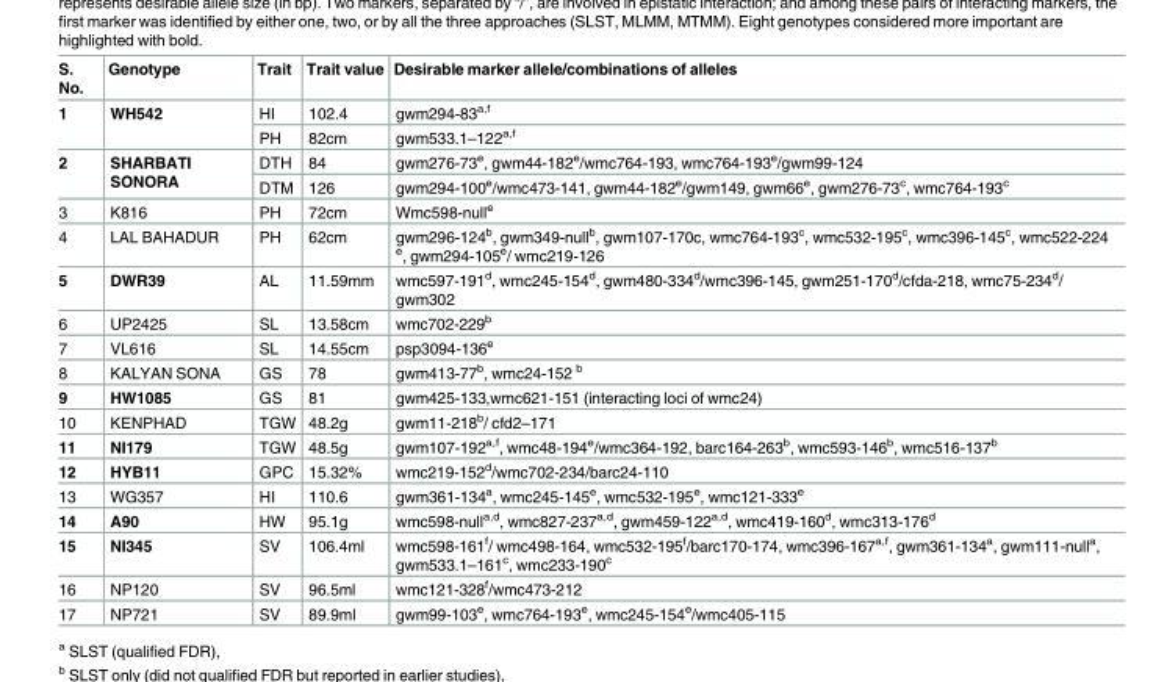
<table><thead><tr><td>S. No.</td><td>Genotype</td><td>Trait</td><td>Trait value</td><td>Desirable marker allele/combinations of alleles</td></tr></thead><tbody><tr><td rowspan="2">1</td><td rowspan="2">WH542</td><td>HI</td><td>102.4</td><td>gwm294-83<sup>a,f</sup></td></tr><tr><td>PH</td><td>82cm</td><td>gwm533.1–122<sup>a,f</sup></td></tr><tr><td rowspan="2">2</td><td rowspan="2">SHARBATI SONORA</td><td>DTH</td><td>84</td><td>gwm276-73<sup>e</sup>, gwm44-182<sup>e</sup>/wmc764-193, wmc764-193<sup>e</sup>/gwm99-124</td></tr><tr><td>DTM</td><td>126</td><td>gwm294-100<sup>e</sup>/wmc473-141, gwm44-182<sup>e</sup>/gwm149, gwm66<sup>e</sup>, gwm276-73<sup>c</sup>, wmc764-193<sup>c</sup></td></tr><tr><td>3</td><td>K816</td><td>PH</td><td>72cm</td><td>Wmc598-null<sup>e</sup></td></tr><tr><td>4</td><td>LAL BAHADUR</td><td>PH</td><td>62cm</td><td>gwm296-124<sup>b</sup>, gwm349-null<sup>b</sup>, gwm107-170c, wmc764-193<sup>c</sup>, wmc532-195<sup>c</sup>, wmc396-145<sup>c</sup>, wmc522-224 <sup>e</sup>, gwm294-105<sup>e</sup>/ wmc219-126</td></tr><tr><td>5</td><td>DWR39</td><td>AL</td><td>11.59mm</td><td>wmc597-191<sup>d</sup>, wmc245-154<sup>d</sup>, gwm480-334<sup>d</sup>/wmc396-145, gwm251-170<sup>d</sup>/cfda-218, wmc75-234<sup>d</sup>/ gwm302</td></tr><tr><td>6</td><td>UP2425</td><td>SL</td><td>13.58cm</td><td>wmc702-229<sup>b</sup></td></tr><tr><td>7</td><td>VL616</td><td>SL</td><td>14.55cm</td><td>psp3094-136<sup>e</sup></td></tr><tr><td>8</td><td>KALYAN SONA</td><td>GS</td><td>78</td><td>gwm413-77<sup>b</sup>, wmc24-152 <sup>b</sup></td></tr><tr><td>9</td><td>HW1085</td><td>GS</td><td>81</td><td>gwm425-133,wmc621-151 (interacting loci of wmc24)</td></tr><tr><td>10</td><td>KENPHAD</td><td>TGW</td><td>48.2g</td><td>gwm11-218<sup>b</sup>/ cfd2–171</td></tr><tr><td>11</td><td>NI179</td><td>TGW</td><td>48.5g</td><td>gwm107-192<sup>a,f</sup>, wmc48-194<sup>e</sup>/wmc364-192, barc164-263<sup>b</sup>, wmc593-146<sup>b</sup>, wmc516-137<sup>b</sup></td></tr><tr><td>12</td><td>HYB11</td><td>GPC</td><td>15.32%</td><td>wmc219-152<sup>d</sup>/wmc702-234/barc24-110</td></tr><tr><td>13</td><td>WG357</td><td>HI</td><td>110.6</td><td>gwm361-134<sup>a</sup>, wmc245-145<sup>e</sup>, wmc532-195<sup>e</sup>, wmc121-333<sup>e</sup></td></tr><tr><td>14</td><td>A90</td><td>HW</td><td>95.1g</td><td>wmc598-null<sup>a,d</sup>, wmc827-237<sup>a,d</sup>, gwm459-122<sup>a,d</sup>, wmc419-160<sup>d</sup>, wmc313-176<sup>d</sup></td></tr><tr><td>15</td><td>NI345</td><td>SV</td><td>106.4ml</td><td>wmc598-161<sup>f</sup>/ wmc498-164, wmc532-195<sup>f</sup>/barc170-174, wmc396-167<sup>a,f</sup>, gwm361-134<sup>a</sup>, gwm111-null<sup>a</sup>, gwm533.1–161<sup>c</sup>, wmc233-190<sup>c</sup></td></tr><tr><td>16</td><td>NP120</td><td>SV</td><td>96.5ml</td><td>wmc121-328<sup>f</sup>/wmc473-212</td></tr><tr><td>17</td><td>NP721</td><td>SV</td><td>89.9ml</td><td>gwm99-103<sup>e</sup>, wmc764-193<sup>e</sup>, wmc245-154<sup>e</sup>/wmc405-115</td></tr></tbody></table>